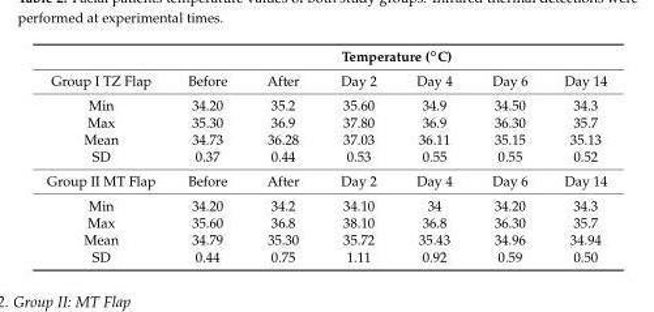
<table><thead><tr><td rowspan="2">Group I TZ Flap</td><td colspan="6">Temperature (◦C)</td></tr><tr><td>Before</td><td>After</td><td>Day 2</td><td>Day 4</td><td>Day 6</td><td>Day 14</td></tr></thead><tbody><tr><td>Min</td><td>34.20</td><td>35.2</td><td>35.60</td><td>34.9</td><td>34.50</td><td>34.3</td></tr><tr><td>Max</td><td>35.30</td><td>36.9</td><td>37.80</td><td>36.9</td><td>36.30</td><td>35.7</td></tr><tr><td>Mean</td><td>34.73</td><td>36.28</td><td>37.03</td><td>36.11</td><td>35.15</td><td>35.13</td></tr><tr><td>SD</td><td>0.37</td><td>0.44</td><td>0.53</td><td>0.55</td><td>0.55</td><td>0.52</td></tr><tr><td>Group II MT Flap</td><td>Before</td><td>After</td><td>Day 2</td><td>Day 4</td><td>Day 6</td><td>Day 14</td></tr><tr><td>Min</td><td>34.20</td><td>34.2</td><td>34.10</td><td>34</td><td>34.20</td><td>34.3</td></tr><tr><td>Max</td><td>35.60</td><td>36.8</td><td>38.10</td><td>36.8</td><td>36.30</td><td>35.7</td></tr><tr><td>Mean</td><td>34.79</td><td>35.30</td><td>35.72</td><td>35.43</td><td>34.96</td><td>34.94</td></tr><tr><td>SD</td><td>0.44</td><td>0.75</td><td>1.11</td><td>0.92</td><td>0.59</td><td>0.50</td></tr></tbody></table>